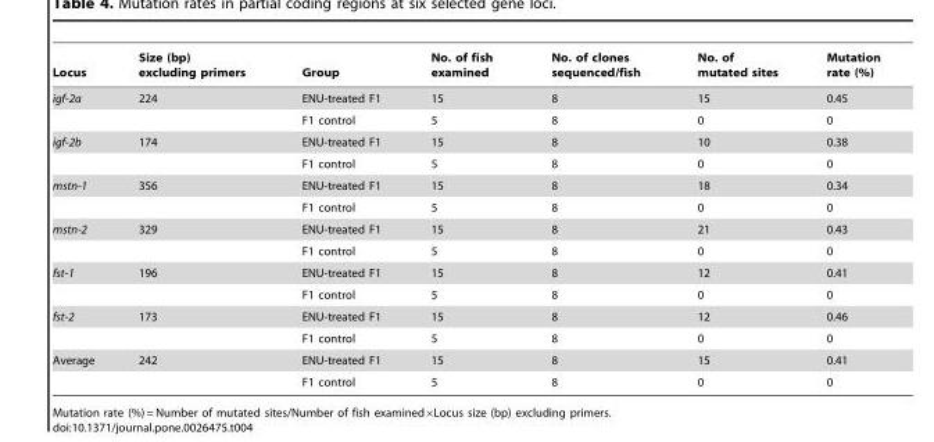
<table><thead><tr><td>Locus</td><td>Size (bp) excluding primers</td><td>Group</td><td>No. of fish examined</td><td>No. of clones sequenced/fish</td><td>No. of mutated sites</td><td>Mutation rate (%)</td></tr></thead><tbody><tr><td rowspan="2">igf-2a</td><td>224</td><td>ENU-treated F1</td><td>15</td><td>8</td><td>15</td><td>0.45</td></tr><tr><td></td><td>F1 control</td><td>5</td><td>8</td><td>0</td><td>0</td></tr><tr><td rowspan="2">igf-2b</td><td>174</td><td>ENU-treated F1</td><td>15</td><td>8</td><td>10</td><td>0.38</td></tr><tr><td></td><td>F1 control</td><td>5</td><td>8</td><td>0</td><td>0</td></tr><tr><td rowspan="2">mstn-1</td><td>356</td><td>ENU-treated F1</td><td>15</td><td>8</td><td>18</td><td>0.34</td></tr><tr><td></td><td>F1 control</td><td>5</td><td>8</td><td>0</td><td>0</td></tr><tr><td rowspan="2">mstn-2</td><td>329</td><td>ENU-treated F1</td><td>15</td><td>8</td><td>21</td><td>0.43</td></tr><tr><td></td><td>F1 control</td><td>5</td><td>8</td><td>0</td><td>0</td></tr><tr><td rowspan="2">fst-1</td><td>196</td><td>ENU-treated F1</td><td>15</td><td>8</td><td>12</td><td>0.41</td></tr><tr><td></td><td>F1 control</td><td>5</td><td>8</td><td>0</td><td>0</td></tr><tr><td rowspan="2">fst-2</td><td>173</td><td>ENU-treated F1</td><td>15</td><td>8</td><td>12</td><td>0.46</td></tr><tr><td></td><td>F1 control</td><td>5</td><td>8</td><td>0</td><td>0</td></tr><tr><td rowspan="2">Average</td><td>242</td><td>ENU-treated F1</td><td>15</td><td>8</td><td>15</td><td>0.41</td></tr><tr><td></td><td>F1 control</td><td>5</td><td>8</td><td>0</td><td>0</td></tr></tbody></table>